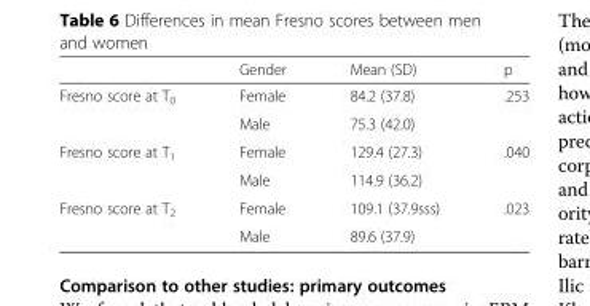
<table><thead><tr><td></td><td>Gender</td><td>Mean (SD)</td><td>p</td></tr></thead><tbody><tr><td rowspan="2">Fresno score at T<sub>0</sub></td><td>Female</td><td>84.2 (37.8)</td><td rowspan="2">.253</td></tr><tr><td>Male</td><td>75.3 (42.0)</td></tr><tr><td rowspan="2">Fresno score at T<sub>1</sub></td><td>Female</td><td>129.4 (27.3)</td><td rowspan="2">.040</td></tr><tr><td>Male</td><td>114.9 (36.2)</td></tr><tr><td rowspan="2">Fresno score at T<sub>2</sub></td><td>Female</td><td>109.1 (37.9sss)</td><td rowspan="2">.023</td></tr><tr><td>Male</td><td>89.6 (37.9)</td></tr></tbody></table>